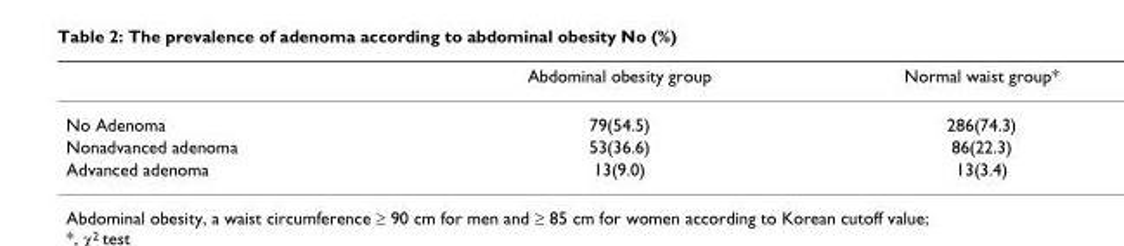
<table><thead><tr><td></td><td>Abdominal obesity group</td><td>Normal waist group*</td></tr></thead><tbody><tr><td>No Adenoma</td><td>79(54.5)</td><td>286(74.3)</td></tr><tr><td>Nonadvanced adenoma</td><td>53(36.6)</td><td>86(22.3)</td></tr><tr><td>Advanced adenoma</td><td>13(9.0)</td><td>13(3.4)</td></tr></tbody></table>